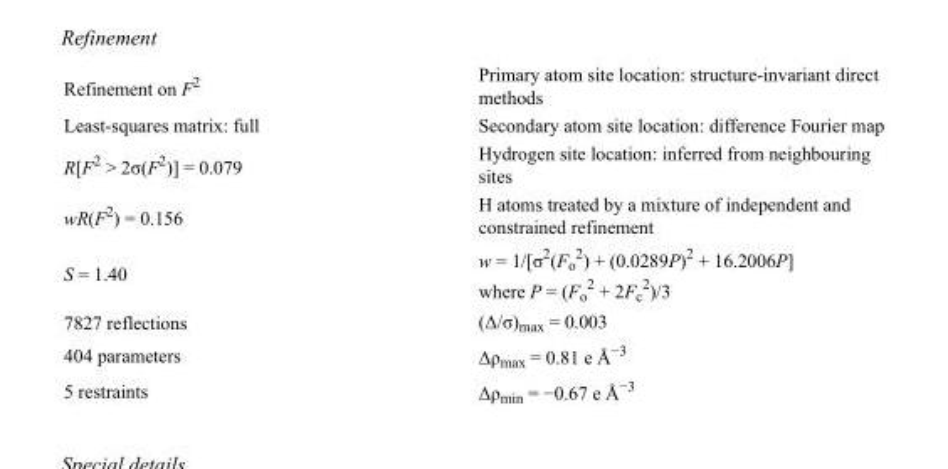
<table><tbody><tr><td>Refinement on F<sup>2</sup></td><td>Primary atom site location: structure-invariant direct methods</td></tr><tr><td>Least-squares matrix: full</td><td>Secondary atom site location: difference Fourier map</td></tr><tr><td>R[F<sup>2</sup> &gt; 2σ(F<sup>2</sup>)] = 0.079</td><td>Hydrogen site location: inferred from neighbouring sites</td></tr><tr><td>wR(F<sup>2</sup>) = 0.156</td><td>H atoms treated by a mixture of independent and constrained refinement</td></tr><tr><td>S = 1.40</td><td>w = 1/[σ<sup>2</sup>(F<sub>o</sub> <sup>2</sup>) + (0.0289P)<sup>2</sup> + 16.2006P] where P = (F<sub>o</sub> <sup>2</sup> + 2F<sub>c</sub> <sup>2</sup>)/3</td></tr><tr><td>7827 reflections</td><td>(Δ/σ)<sub>max</sub> = 0.003</td></tr><tr><td>404 parameters</td><td>Δρ<sub>max</sub> = 0.81 e Å<sup>−3</sup></td></tr><tr><td>5 restraints</td><td>Δρ<sub>min</sub> = −0.67 e Å<sup>−3</sup></td></tr></tbody></table>